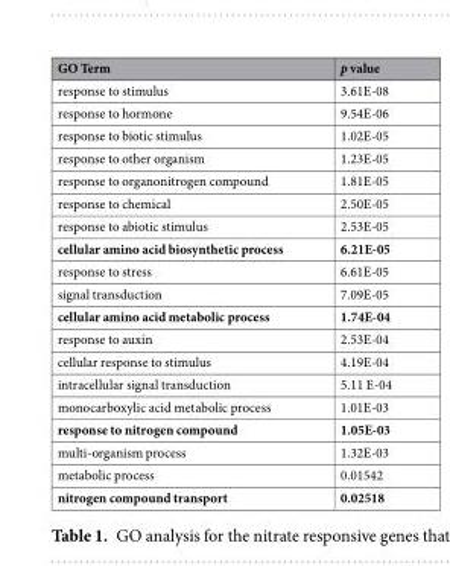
<table><thead><tr><td>GO Term</td><td>p value</td></tr></thead><tbody><tr><td>response to stimulus</td><td>3.61E-08</td></tr><tr><td>response to hormone</td><td>9.54E-06</td></tr><tr><td>response to biotic stimulus</td><td>1.02E-05</td></tr><tr><td>response to other organism</td><td>1.23E-05</td></tr><tr><td>response to organonitrogen compound</td><td>1.81E-05</td></tr><tr><td>response to chemical</td><td>2.50E-05</td></tr><tr><td>response to abiotic stimulus</td><td>2.53E-05</td></tr><tr><td>cellular amino acid biosynthetic process</td><td>6.21E-05</td></tr><tr><td>response to stress</td><td>6.61E-05</td></tr><tr><td>signal transduction</td><td>7.09E-05</td></tr><tr><td>cellular amino acid metabolic process</td><td>1.74E-04</td></tr><tr><td>response to auxin</td><td>2.53E-04</td></tr><tr><td>cellular response to stimulus</td><td>4.19E-04</td></tr><tr><td>intracellular signal transduction</td><td>5.11 E-04</td></tr><tr><td>monocarboxylic acid metabolic process</td><td>1.01E-03</td></tr><tr><td>response to nitrogen compound</td><td>1.05E-03</td></tr><tr><td>multi-organism process</td><td>1.32E-03</td></tr><tr><td>metabolic process</td><td>0.01542</td></tr><tr><td>nitrogen compound transport</td><td>0.02518</td></tr></tbody></table>